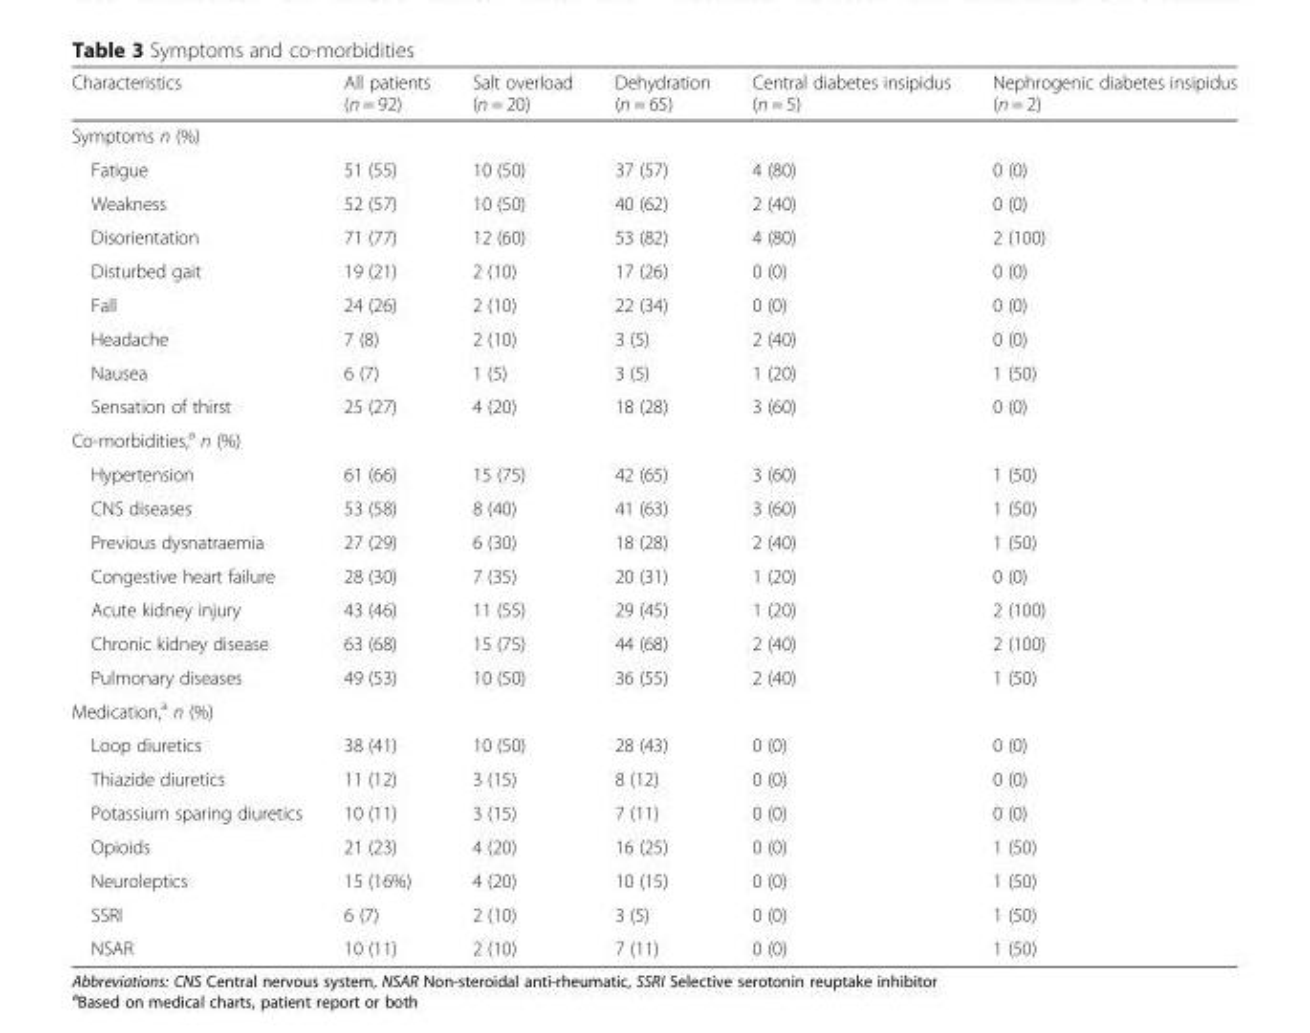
<table><thead><tr><td>Characteristics</td><td>All patients (n = 92)</td><td>Salt overload (n = 20)</td><td>Dehydration (n = 65)</td><td>Central diabetes insipidus (n = 5)</td><td>Nephrogenic diabetes insipidus (n = 2)</td></tr></thead><tbody><tr><td colspan="6">Symptoms n (%)</td></tr><tr><td>Fatigue</td><td>51 (55)</td><td>10 (50)</td><td>37 (57)</td><td>4 (80)</td><td>0 (0)</td></tr><tr><td>Weakness</td><td>52 (57)</td><td>10 (50)</td><td>40 (62)</td><td>2 (40)</td><td>0 (0)</td></tr><tr><td>Disorientation</td><td>71 (77)</td><td>12 (60)</td><td>53 (82)</td><td>4 (80)</td><td>2 (100)</td></tr><tr><td>Disturbed gait</td><td>19 (21)</td><td>2 (10)</td><td>17 (26)</td><td>0 (0)</td><td>0 (0)</td></tr><tr><td>Fall</td><td>24 (26)</td><td>2 (10)</td><td>22 (34)</td><td>0 (0)</td><td>0 (0)</td></tr><tr><td>Headache</td><td>7 (8)</td><td>2 (10)</td><td>3 (5)</td><td>2 (40)</td><td>0 (0)</td></tr><tr><td>Nausea</td><td>6 (7)</td><td>1 (5)</td><td>3 (5)</td><td>1 (20)</td><td>1 (50)</td></tr><tr><td>Sensation of thirst</td><td>25 (27)</td><td>4 (20)</td><td>18 (28)</td><td>3 (60)</td><td>0 (0)</td></tr><tr><td colspan="6">Co-morbidities,<sup>a</sup> n (%)</td></tr><tr><td>Hypertension</td><td>61 (66)</td><td>15 (75)</td><td>42 (65)</td><td>3 (60)</td><td>1 (50)</td></tr><tr><td>CNS diseases</td><td>53 (58)</td><td>8 (40)</td><td>41 (63)</td><td>3 (60)</td><td>1 (50)</td></tr><tr><td>Previous dysnatraemia</td><td>27 (29)</td><td>6 (30)</td><td>18 (28)</td><td>2 (40)</td><td>1 (50)</td></tr><tr><td>Congestive heart failure</td><td>28 (30)</td><td>7 (35)</td><td>20 (31)</td><td>1 (20)</td><td>0 (0)</td></tr><tr><td>Acute kidney injury</td><td>43 (46)</td><td>11 (55)</td><td>29 (45)</td><td>1 (20)</td><td>2 (100)</td></tr><tr><td>Chronic kidney disease</td><td>63 (68)</td><td>15 (75)</td><td>44 (68)</td><td>2 (40)</td><td>2 (100)</td></tr><tr><td>Pulmonary diseases</td><td>49 (53)</td><td>10 (50)</td><td>36 (55)</td><td>2 (40)</td><td>1 (50)</td></tr><tr><td colspan="6">Medication,<sup>a</sup> n (%)</td></tr><tr><td>Loop diuretics</td><td>38 (41)</td><td>10 (50)</td><td>28 (43)</td><td>0 (0)</td><td>0 (0)</td></tr><tr><td>Thiazide diuretics</td><td>11 (12)</td><td>3 (15)</td><td>8 (12)</td><td>0 (0)</td><td>0 (0)</td></tr><tr><td>Potassium sparing diuretics</td><td>10 (11)</td><td>3 (15)</td><td>7 (11)</td><td>0 (0)</td><td>0 (0)</td></tr><tr><td>Opioids</td><td>21 (23)</td><td>4 (20)</td><td>16 (25)</td><td>0 (0)</td><td>1 (50)</td></tr><tr><td>Neuroleptics</td><td>15 (16%)</td><td>4 (20)</td><td>10 (15)</td><td>0 (0)</td><td>1 (50)</td></tr><tr><td>SSRI</td><td>6 (7)</td><td>2 (10)</td><td>3 (5)</td><td>0 (0)</td><td>1 (50)</td></tr><tr><td>NSAR</td><td>10 (11)</td><td>2 (10)</td><td>7 (11)</td><td>0 (0)</td><td>1 (50)</td></tr></tbody></table>